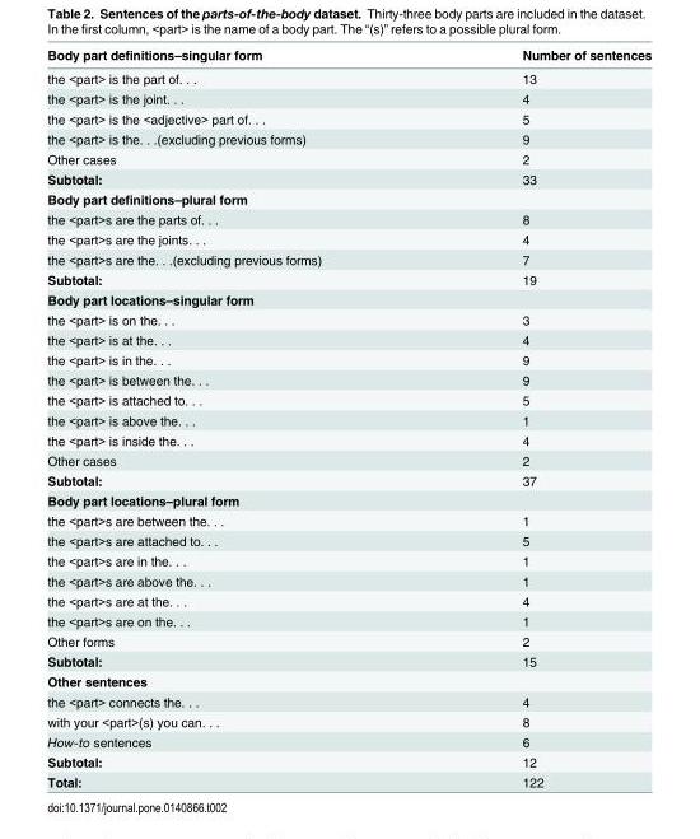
<table><thead><tr><td>Body part definitions–singular form</td><td>Number of sentences</td></tr></thead><tbody><tr><td>the &lt;part&gt; is the part of. . .</td><td>13</td></tr><tr><td>the &lt;part&gt; is the joint. . .</td><td>4</td></tr><tr><td>the &lt;part&gt; is the &lt;adjective&gt; part of. . .</td><td>5</td></tr><tr><td>the &lt;part&gt; is the. . .(excluding previous forms)</td><td>9</td></tr><tr><td>Other cases</td><td>2</td></tr><tr><td>Subtotal:</td><td>33</td></tr><tr><td colspan="2">Body part definitions–plural form</td></tr><tr><td>the &lt;part&gt;s are the parts of. . .</td><td>8</td></tr><tr><td>the &lt;part&gt;s are the joints. . .</td><td>4</td></tr><tr><td>the &lt;part&gt;s are the. . .(excluding previous forms)</td><td>7</td></tr><tr><td>Subtotal:</td><td>19</td></tr><tr><td colspan="2">Body part locations–singular form</td></tr><tr><td>the &lt;part&gt; is on the. . .</td><td>3</td></tr><tr><td>the &lt;part&gt; is at the. . .</td><td>4</td></tr><tr><td>the &lt;part&gt; is in the. . .</td><td>9</td></tr><tr><td>the &lt;part&gt; is between the. . .</td><td>9</td></tr><tr><td>the &lt;part&gt; is attached to. . .</td><td>5</td></tr><tr><td>the &lt;part&gt; is above the. . .</td><td>1</td></tr><tr><td>the &lt;part&gt; is inside the. . .</td><td>4</td></tr><tr><td>Other cases</td><td>2</td></tr><tr><td>Subtotal:</td><td>37</td></tr><tr><td colspan="2">Body part locations–plural form</td></tr><tr><td>the &lt;part&gt;s are between the. . .</td><td>1</td></tr><tr><td>the &lt;part&gt;s are attached to. . .</td><td>5</td></tr><tr><td>the &lt;part&gt;s are in the. . .</td><td>1</td></tr><tr><td>the &lt;part&gt;s are above the. . .</td><td>1</td></tr><tr><td>the &lt;part&gt;s are at the. . .</td><td>4</td></tr><tr><td>the &lt;part&gt;s are on the. . .</td><td>1</td></tr><tr><td>Other forms</td><td>2</td></tr><tr><td>Subtotal:</td><td>15</td></tr><tr><td colspan="2">Other sentences</td></tr><tr><td>the &lt;part&gt; connects the. . .</td><td>4</td></tr><tr><td>with your &lt;part&gt;(s) you can. . .</td><td>8</td></tr><tr><td>How-to sentences</td><td>6</td></tr><tr><td>Subtotal:</td><td>12</td></tr><tr><td>Total:</td><td>122</td></tr></tbody></table>